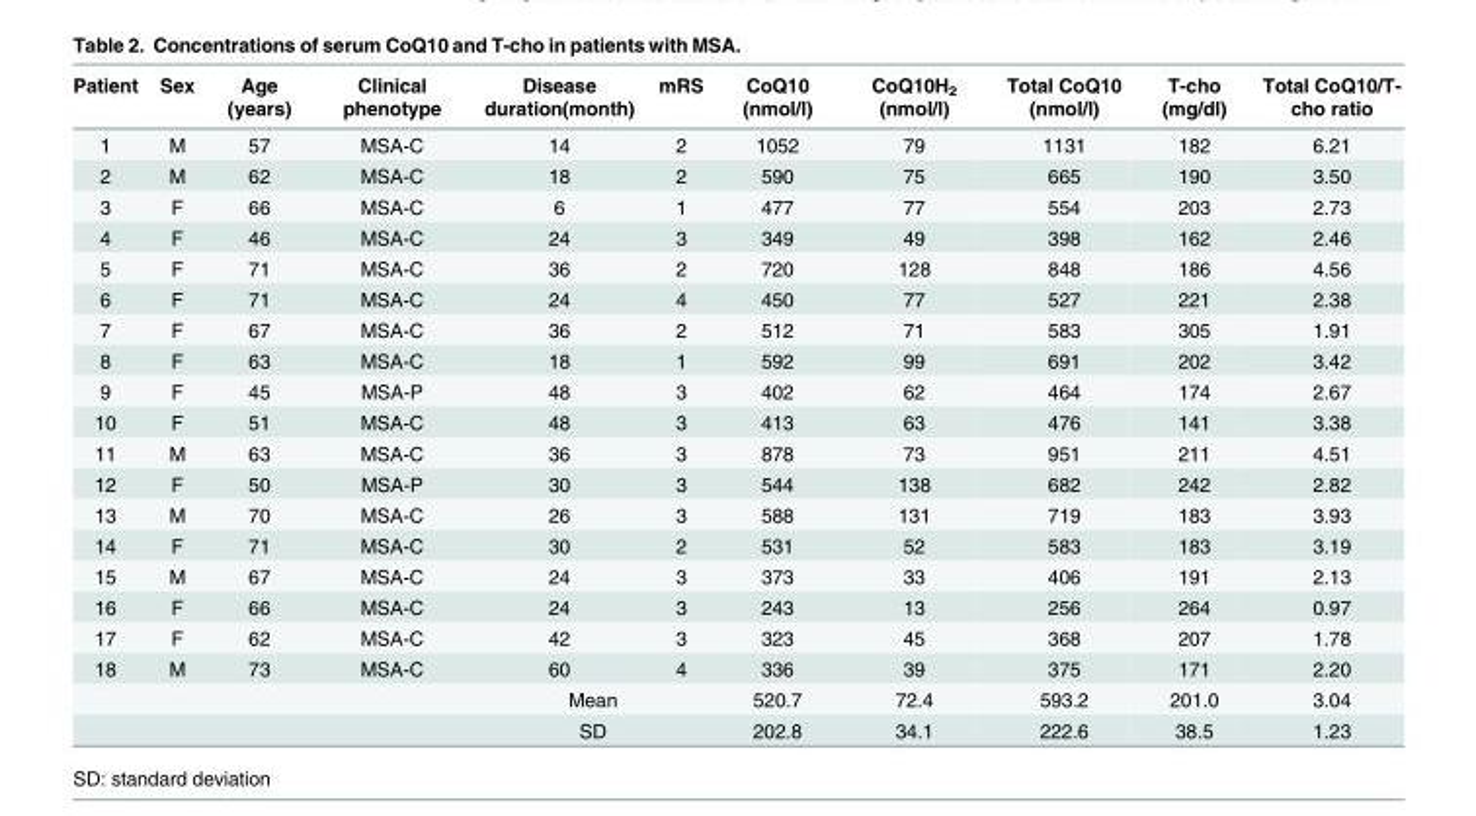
<table><thead><tr><td>Patient</td><td>Sex</td><td>Age (years)</td><td>Clinical phenotype</td><td>Disease duration(month)</td><td>mRS</td><td>CoQ10 (nmol/l)</td><td>CoQ10H<sub>2</sub> (nmol/l)</td><td>Total CoQ10 (nmol/l)</td><td>T-cho (mg/dl)</td><td>Total CoQ10/T- cho ratio</td></tr></thead><tbody><tr><td>1</td><td>M</td><td>57</td><td>MSA-C</td><td>14</td><td>2</td><td>1052</td><td>79</td><td>1131</td><td>182</td><td>6.21</td></tr><tr><td>2</td><td>M</td><td>62</td><td>MSA-C</td><td>18</td><td>2</td><td>590</td><td>75</td><td>665</td><td>190</td><td>3.50</td></tr><tr><td>3</td><td>F</td><td>66</td><td>MSA-C</td><td>6</td><td>1</td><td>477</td><td>77</td><td>554</td><td>203</td><td>2.73</td></tr><tr><td>4</td><td>F</td><td>46</td><td>MSA-C</td><td>24</td><td>3</td><td>349</td><td>49</td><td>398</td><td>162</td><td>2.46</td></tr><tr><td>5</td><td>F</td><td>71</td><td>MSA-C</td><td>36</td><td>2</td><td>720</td><td>128</td><td>848</td><td>186</td><td>4.56</td></tr><tr><td>6</td><td>F</td><td>71</td><td>MSA-C</td><td>24</td><td>4</td><td>450</td><td>77</td><td>527</td><td>221</td><td>2.38</td></tr><tr><td>7</td><td>F</td><td>67</td><td>MSA-C</td><td>36</td><td>2</td><td>512</td><td>71</td><td>583</td><td>305</td><td>1.91</td></tr><tr><td>8</td><td>F</td><td>63</td><td>MSA-C</td><td>18</td><td>1</td><td>592</td><td>99</td><td>691</td><td>202</td><td>3.42</td></tr><tr><td>9</td><td>F</td><td>45</td><td>MSA-P</td><td>48</td><td>3</td><td>402</td><td>62</td><td>464</td><td>174</td><td>2.67</td></tr><tr><td>10</td><td>F</td><td>51</td><td>MSA-C</td><td>48</td><td>3</td><td>413</td><td>63</td><td>476</td><td>141</td><td>3.38</td></tr><tr><td>11</td><td>M</td><td>63</td><td>MSA-C</td><td>36</td><td>3</td><td>878</td><td>73</td><td>951</td><td>211</td><td>4.51</td></tr><tr><td>12</td><td>F</td><td>50</td><td>MSA-P</td><td>30</td><td>3</td><td>544</td><td>138</td><td>682</td><td>242</td><td>2.82</td></tr><tr><td>13</td><td>M</td><td>70</td><td>MSA-C</td><td>26</td><td>3</td><td>588</td><td>131</td><td>719</td><td>183</td><td>3.93</td></tr><tr><td>14</td><td>F</td><td>71</td><td>MSA-C</td><td>30</td><td>2</td><td>531</td><td>52</td><td>583</td><td>183</td><td>3.19</td></tr><tr><td>15</td><td>M</td><td>67</td><td>MSA-C</td><td>24</td><td>3</td><td>373</td><td>33</td><td>406</td><td>191</td><td>2.13</td></tr><tr><td>16</td><td>F</td><td>66</td><td>MSA-C</td><td>24</td><td>3</td><td>243</td><td>13</td><td>256</td><td>264</td><td>0.97</td></tr><tr><td>17</td><td>F</td><td>62</td><td>MSA-C</td><td>42</td><td>3</td><td>323</td><td>45</td><td>368</td><td>207</td><td>1.78</td></tr><tr><td>18</td><td>M</td><td>73</td><td>MSA-C</td><td>60</td><td>4</td><td>336</td><td>39</td><td>375</td><td>171</td><td>2.20</td></tr><tr><td colspan="3"></td><td></td><td colspan="2">Mean</td><td>520.7</td><td>72.4</td><td>593.2</td><td>201.0</td><td>3.04</td></tr><tr><td colspan="3"></td><td></td><td colspan="2">SD</td><td>202.8</td><td>34.1</td><td>222.6</td><td>38.5</td><td>1.23</td></tr></tbody></table>